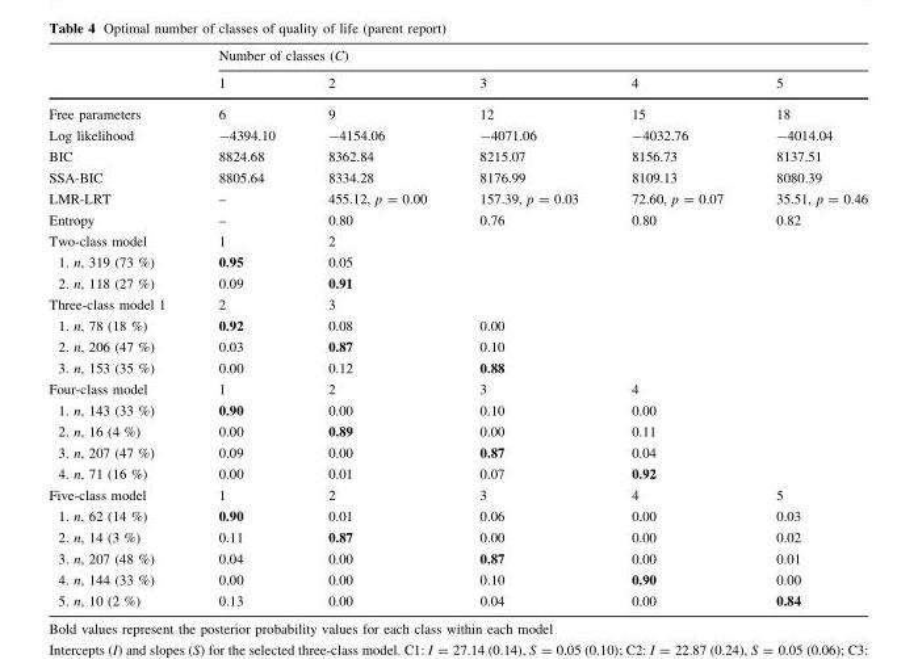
<table><thead><tr><td rowspan="2"></td><td colspan="5">Number of classes (C)</td></tr><tr><td>1</td><td>2</td><td>3</td><td>4</td><td>5</td></tr></thead><tbody><tr><td>Free parameters</td><td>6</td><td>9</td><td>12</td><td>15</td><td>18</td></tr><tr><td>Log likelihood</td><td>-4394.10</td><td>-4154.06</td><td>-4071.06</td><td>-4032.76</td><td>-4014.04</td></tr><tr><td>BIC</td><td>8824.68</td><td>8362.84</td><td>8215.07</td><td>8156.73</td><td>8137.51</td></tr><tr><td>SSA-BIC</td><td>8805.64</td><td>8334.28</td><td>8176.99</td><td>8109.13</td><td>8080.39</td></tr><tr><td>LMR-LRT</td><td>–</td><td>455.12, p = 0.00</td><td>157.39, p = 0.03</td><td>72.60, p = 0.07</td><td>35.51, p = 0.46</td></tr><tr><td>Entropy</td><td>–</td><td>0.80</td><td>0.76</td><td>0.80</td><td>0.82</td></tr><tr><td>Two-class model</td><td>1</td><td>2</td><td></td><td></td><td></td></tr><tr><td>1. n, 319 (73 %)</td><td>0.95</td><td>0.05</td><td></td><td></td><td></td></tr><tr><td>2. n, 118 (27 %)</td><td>0.09</td><td>0.91</td><td></td><td></td><td></td></tr><tr><td>Three-class model 1</td><td>2</td><td>3</td><td></td><td></td><td></td></tr><tr><td>1. n, 78 (18 %)</td><td>0.92</td><td>0.08</td><td>0.00</td><td></td><td></td></tr><tr><td>2. n, 206 (47 %)</td><td>0.03</td><td>0.87</td><td>0.10</td><td></td><td></td></tr><tr><td>3. n, 153 (35 %)</td><td>0.00</td><td>0.12</td><td>0.88</td><td></td><td></td></tr><tr><td>Four-class model</td><td>1</td><td>2</td><td>3</td><td>4</td><td></td></tr><tr><td>1. n, 143 (33 %)</td><td>0.90</td><td>0.00</td><td>0.10</td><td>0.00</td><td></td></tr><tr><td>2. n, 16 (4 %)</td><td>0.00</td><td>0.89</td><td>0.00</td><td>0.11</td><td></td></tr><tr><td>3. n, 207 (47 %)</td><td>0.09</td><td>0.00</td><td>0.87</td><td>0.04</td><td></td></tr><tr><td>4. n, 71 (16 %)</td><td>0.00</td><td>0.01</td><td>0.07</td><td>0.92</td><td></td></tr><tr><td>Five-class model</td><td>1</td><td>2</td><td>3</td><td>4</td><td>5</td></tr><tr><td>1. n, 62 (14 %)</td><td>0.90</td><td>0.01</td><td>0.06</td><td>0.00</td><td>0.03</td></tr><tr><td>2. n, 14 (3 %)</td><td>0.11</td><td>0.87</td><td>0.00</td><td>0.00</td><td>0.02</td></tr><tr><td>3. n, 207 (48 %)</td><td>0.04</td><td>0.00</td><td>0.87</td><td>0.00</td><td>0.01</td></tr><tr><td>4. n, 144 (33 %)</td><td>0.00</td><td>0.00</td><td>0.10</td><td>0.90</td><td>0.00</td></tr><tr><td>5. n, 10 (2 %)</td><td>0.13</td><td>0.00</td><td>0.04</td><td>0.00</td><td>0.84</td></tr></tbody></table>